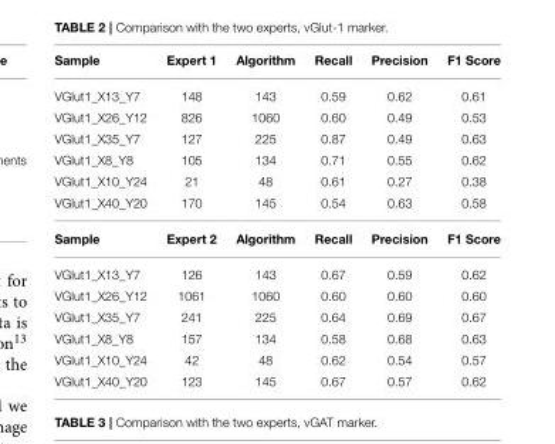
<table><thead><tr><td>Sample</td><td>Expert 1</td><td>Algorithm</td><td>Recall</td><td>Precision</td><td>F1 Score</td></tr></thead><tbody><tr><td>VGlut1_X13_Y7</td><td>148</td><td>143</td><td>0.59</td><td>0.62</td><td>0.61</td></tr><tr><td>VGlut1_X26_Y12</td><td>826</td><td>1060</td><td>0.60</td><td>0.49</td><td>0.53</td></tr><tr><td>VGlut1_X35_Y7</td><td>127</td><td>225</td><td>0.87</td><td>0.49</td><td>0.63</td></tr><tr><td>VGlut1_X8_Y8</td><td>105</td><td>134</td><td>0.71</td><td>0.55</td><td>0.62</td></tr><tr><td>VGlut1_X10_Y24</td><td>21</td><td>48</td><td>0.61</td><td>0.27</td><td>0.38</td></tr><tr><td>VGlut1_X40_Y20</td><td>170</td><td>145</td><td>0.54</td><td>0.63</td><td>0.58</td></tr><tr><td>Sample</td><td>Expert 2</td><td>Algorithm</td><td>Recall</td><td>Precision</td><td>F1 Score</td></tr><tr><td>VGlut1_X13_Y7</td><td>126</td><td>143</td><td>0.67</td><td>0.59</td><td>0.62</td></tr><tr><td>VGlut1_X26_Y12</td><td>1061</td><td>1060</td><td>0.60</td><td>0.60</td><td>0.60</td></tr><tr><td>VGlut1_X35_Y7</td><td>241</td><td>225</td><td>0.64</td><td>0.69</td><td>0.67</td></tr><tr><td>VGlut1_X8_Y8</td><td>157</td><td>134</td><td>0.58</td><td>0.68</td><td>0.63</td></tr><tr><td>VGlut1_X10_Y24</td><td>42</td><td>48</td><td>0.62</td><td>0.54</td><td>0.57</td></tr><tr><td>VGlut1_X40_Y20</td><td>123</td><td>145</td><td>0.67</td><td>0.57</td><td>0.62</td></tr></tbody></table>